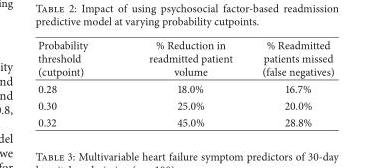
<table><thead><tr><td>Probability threshold (cutpoint)</td><td>% Reduction in readmitted patient volume</td><td>% Readmitted patients missed (false negatives)</td></tr></thead><tbody><tr><td>0.28</td><td>18.0%</td><td>16.7%</td></tr><tr><td>0.30</td><td>25.0%</td><td>20.0%</td></tr><tr><td>0.32</td><td>45.0%</td><td>28.8%</td></tr></tbody></table>